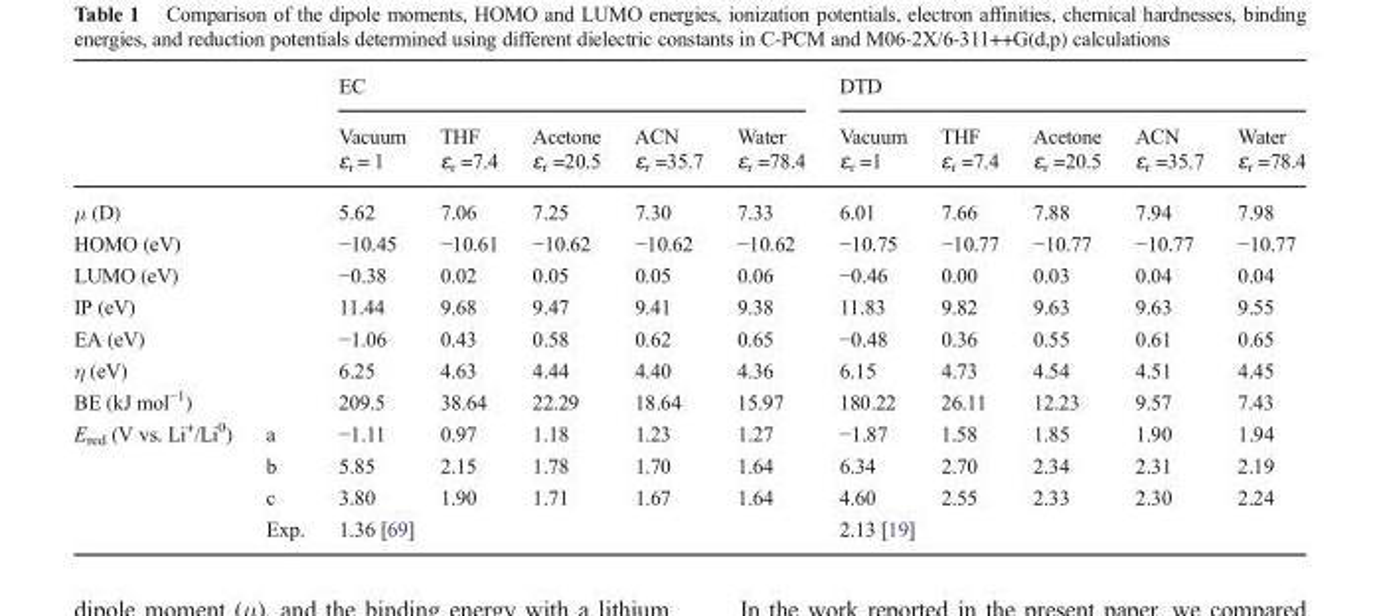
<table><thead><tr><td rowspan="3"></td><td rowspan="3"></td><td colspan="5">EC</td><td colspan="5">DTD</td></tr><tr><td rowspan="2">Vacuum ɛ<sub>r</sub> = 1</td><td rowspan="2">THF ɛ<sub>r</sub> =7.4</td><td rowspan="2">Acetone ɛ<sub>r</sub> =20.5</td><td rowspan="2">ACN ɛ<sub>r</sub> =35.7</td><td rowspan="2">Water ɛ<sub>r</sub> =78.4</td><td rowspan="2">Vacuum ɛ<sub>r</sub> =1</td><td rowspan="2">THF ɛ<sub>r</sub> =7.4</td><td rowspan="2">Acetone ɛ<sub>r</sub> =20.5</td><td rowspan="2">ACN ɛ<sub>r</sub> =35.7</td><td rowspan="2">Water ɛ<sub>r</sub> =78.4</td></tr><tr></tr></thead><tbody><tr><td colspan="2">μ (D)</td><td>5.62</td><td>7.06</td><td>7.25</td><td>7.30</td><td>7.33</td><td>6.01</td><td>7.66</td><td>7.88</td><td>7.94</td><td>7.98</td></tr><tr><td colspan="2">HOMO (eV)</td><td>−10.45</td><td>−10.61</td><td>−10.62</td><td>−10.62</td><td>−10.62</td><td>−10.75</td><td>−10.77</td><td>−10.77</td><td>−10.77</td><td>−10.77</td></tr><tr><td colspan="2">LUMO (eV)</td><td>−0.38</td><td>0.02</td><td>0.05</td><td>0.05</td><td>0.06</td><td>−0.46</td><td>0.00</td><td>0.03</td><td>0.04</td><td>0.04</td></tr><tr><td colspan="2">IP (eV)</td><td>11.44</td><td>9.68</td><td>9.47</td><td>9.41</td><td>9.38</td><td>11.83</td><td>9.82</td><td>9.63</td><td>9.63</td><td>9.55</td></tr><tr><td colspan="2">EA (eV)</td><td>−1.06</td><td>0.43</td><td>0.58</td><td>0.62</td><td>0.65</td><td>−0.48</td><td>0.36</td><td>0.55</td><td>0.61</td><td>0.65</td></tr><tr><td colspan="2">η (eV)</td><td>6.25</td><td>4.63</td><td>4.44</td><td>4.40</td><td>4.36</td><td>6.15</td><td>4.73</td><td>4.54</td><td>4.51</td><td>4.45</td></tr><tr><td colspan="2">BE (kJ mol<sup>−1</sup>)</td><td>209.5</td><td>38.64</td><td>22.29</td><td>18.64</td><td>15.97</td><td>180.22</td><td>26.11</td><td>12.23</td><td>9.57</td><td>7.43</td></tr><tr><td rowspan="4">E<sub>red</sub> (V vs. Li<sup>+</sup>/Li<sup>0</sup>)</td><td>a</td><td>−1.11</td><td>0.97</td><td>1.18</td><td>1.23</td><td>1.27</td><td>−1.87</td><td>1.58</td><td>1.85</td><td>1.90</td><td>1.94</td></tr><tr><td>b</td><td>5.85</td><td>2.15</td><td>1.78</td><td>1.70</td><td>1.64</td><td>6.34</td><td>2.70</td><td>2.34</td><td>2.31</td><td>2.19</td></tr><tr><td>c</td><td>3.80</td><td>1.90</td><td>1.71</td><td>1.67</td><td>1.64</td><td>4.60</td><td>2.55</td><td>2.33</td><td>2.30</td><td>2.24</td></tr><tr><td>Exp.</td><td colspan="5">1.36 [69]</td><td colspan="5">2.13 [19]</td></tr></tbody></table>